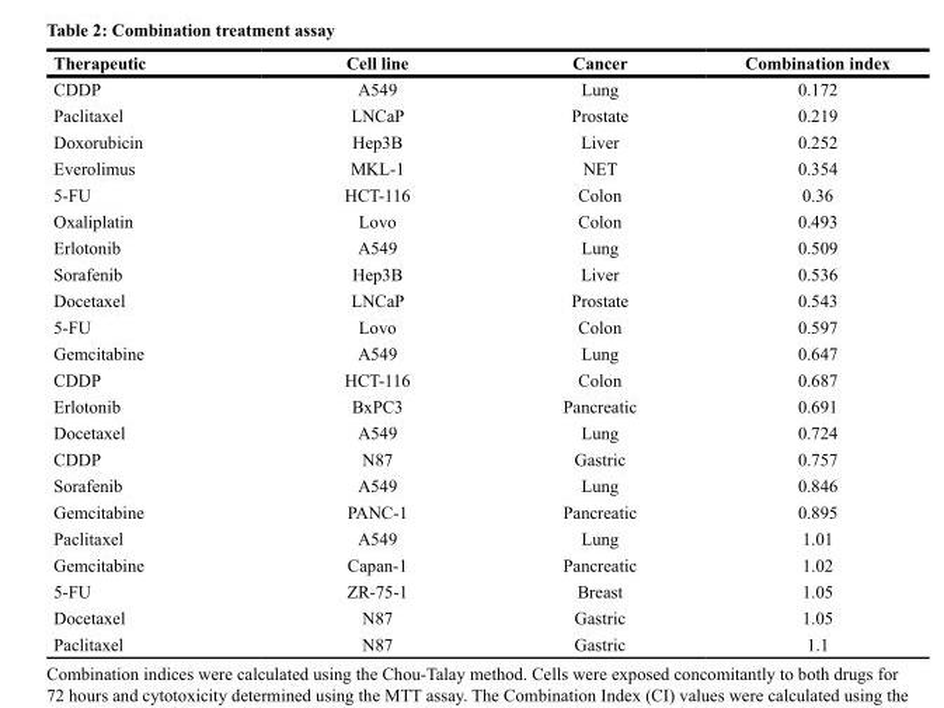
<table><thead><tr><td>Therapeutic</td><td>Cell line</td><td>Cancer</td><td>Combination index</td></tr></thead><tbody><tr><td>CDDP</td><td>A549</td><td>Lung</td><td>0.172</td></tr><tr><td>Paclitaxel</td><td>LNCaP</td><td>Prostate</td><td>0.219</td></tr><tr><td>Doxorubicin</td><td>Hep3B</td><td>Liver</td><td>0.252</td></tr><tr><td>Everolimus</td><td>MKL-1</td><td>NET</td><td>0.354</td></tr><tr><td>5-FU</td><td>HCT-116</td><td>Colon</td><td>0.36</td></tr><tr><td>Oxaliplatin</td><td>Lovo</td><td>Colon</td><td>0.493</td></tr><tr><td>Erlotonib</td><td>A549</td><td>Lung</td><td>0.509</td></tr><tr><td>Sorafenib</td><td>Hep3B</td><td>Liver</td><td>0.536</td></tr><tr><td>Docetaxel</td><td>LNCaP</td><td>Prostate</td><td>0.543</td></tr><tr><td>5-FU</td><td>Lovo</td><td>Colon</td><td>0.597</td></tr><tr><td>Gemcitabine</td><td>A549</td><td>Lung</td><td>0.647</td></tr><tr><td>CDDP</td><td>HCT-116</td><td>Colon</td><td>0.687</td></tr><tr><td>Erlotonib</td><td>BxPC3</td><td>Pancreatic</td><td>0.691</td></tr><tr><td>Docetaxel</td><td>A549</td><td>Lung</td><td>0.724</td></tr><tr><td>CDDP</td><td>N87</td><td>Gastric</td><td>0.757</td></tr><tr><td>Sorafenib</td><td>A549</td><td>Lung</td><td>0.846</td></tr><tr><td>Gemcitabine</td><td>PANC-1</td><td>Pancreatic</td><td>0.895</td></tr><tr><td>Paclitaxel</td><td>A549</td><td>Lung</td><td>1.01</td></tr><tr><td>Gemcitabine</td><td>Capan-1</td><td>Pancreatic</td><td>1.02</td></tr><tr><td>5-FU</td><td>ZR-75-1</td><td>Breast</td><td>1.05</td></tr><tr><td>Docetaxel</td><td>N87</td><td>Gastric</td><td>1.05</td></tr><tr><td>Paclitaxel</td><td>N87</td><td>Gastric</td><td>1.1</td></tr></tbody></table>